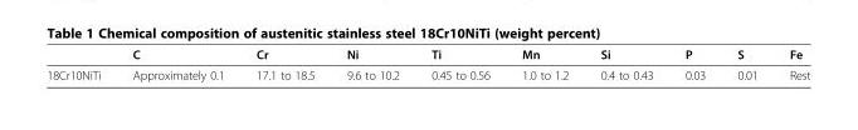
<table><thead><tr><td></td><td>С</td><td>Cr</td><td>Ni</td><td>Ti</td><td>Mn</td><td>Si</td><td>P</td><td>S</td><td>Fe</td></tr></thead><tbody><tr><td>18Cr10NiTi</td><td>Approximately 0.1</td><td>17.1 to 18.5</td><td>9.6 to 10.2</td><td>0.45 to 0.56</td><td>1.0 to 1.2</td><td>0.4 to 0.43</td><td>0.03</td><td>0.01</td><td>Rest</td></tr></tbody></table>